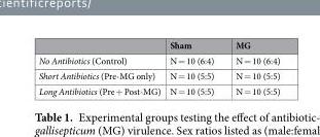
<table><thead><tr><td></td><td>Sham</td><td>MG</td></tr></thead><tbody><tr><td>No Antibiotics (Control)</td><td>N = 10 (6:4)</td><td>N = 10 (6:4)</td></tr><tr><td>Short Antibiotics (Pre-MG only)</td><td>N = 10 (5:5)</td><td>N = 10 (5:5)</td></tr><tr><td>Long Antibiotics (Pre + Post-MG)</td><td>N = 10 (5:5)</td><td>N = 10 (5:5)</td></tr></tbody></table>